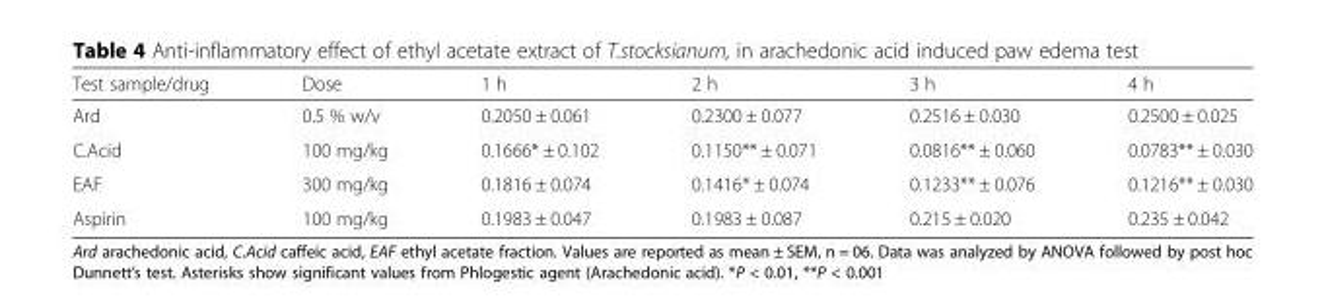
<table><thead><tr><td>Test sample/drug</td><td>Dose</td><td>1 h</td><td>2 h</td><td>3 h</td><td>4 h</td></tr></thead><tbody><tr><td>Ard</td><td>0.5 % w/v</td><td>0.2050 ± 0.061</td><td>0.2300 ± 0.077</td><td>0.2516 ± 0.030</td><td>0.2500 ± 0.025</td></tr><tr><td>C.Acid</td><td>100 mg/kg</td><td>0.1666* ± 0.102</td><td>0.1150** ± 0.071</td><td>0.0816** ± 0.060</td><td>0.0783** ± 0.030</td></tr><tr><td>EAF</td><td>300 mg/kg</td><td>0.1816 ± 0.074</td><td>0.1416* ± 0.074</td><td>0.1233** ± 0.076</td><td>0.1216** ± 0.030</td></tr><tr><td>Aspirin</td><td>100 mg/kg</td><td>0.1983 ± 0.047</td><td>0.1983 ± 0.087</td><td>0.215 ± 0.020</td><td>0.235 ± 0.042</td></tr></tbody></table>